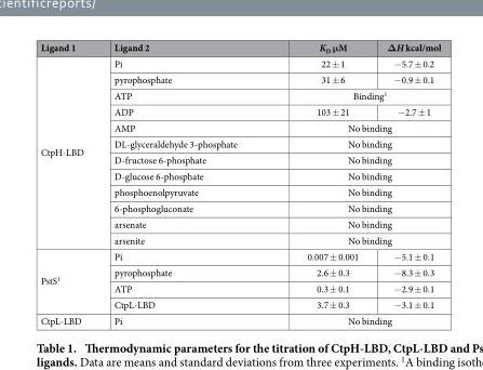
<table><thead><tr><td>Ligand 1</td><td>Ligand 2</td><td>K<sub>D</sub> μM</td><td>ΔH kcal/mol</td></tr></thead><tbody><tr><td rowspan="12">CtpH-LBD</td><td>Pi</td><td>22 ± 1</td><td>− 5.7 ± 0.2</td></tr><tr><td>pyrophosphate</td><td>31 ± 6</td><td>− 0.9 ± 0.1</td></tr><tr><td>ATP</td><td colspan="2">Binding<sup>1</sup></td></tr><tr><td>ADP</td><td>103 ± 21</td><td>− 2.7 ± 1</td></tr><tr><td>AMP</td><td colspan="2">No binding</td></tr><tr><td>DL-glyceraldehyde 3-phosphate</td><td colspan="2">No binding</td></tr><tr><td>D-fructose 6-phosphate</td><td colspan="2">No binding</td></tr><tr><td>D-glucose 6-phosphate</td><td colspan="2">No binding</td></tr><tr><td>phosphoenolpyruvate</td><td colspan="2">No binding</td></tr><tr><td>6-phosphogluconate</td><td colspan="2">No binding</td></tr><tr><td>arsenate</td><td colspan="2">No binding</td></tr><tr><td>arsenite</td><td colspan="2">No binding</td></tr><tr><td rowspan="4">PstS<sup>1</sup></td><td>Pi</td><td>0.007 ± 0.001</td><td>− 5.1 ± 0.1</td></tr><tr><td>pyrophosphate</td><td>2.6 ± 0.3</td><td>− 8.3 ± 0.3</td></tr><tr><td>ATP</td><td>0.3 ± 0.1</td><td>− 2.9 ± 0.1</td></tr><tr><td>CtpL-LBD</td><td>3.7 ± 0.3</td><td>− 3.1 ± 0.1</td></tr><tr><td>CtpL-LBD</td><td>Pi</td><td colspan="2">No binding</td></tr></tbody></table>